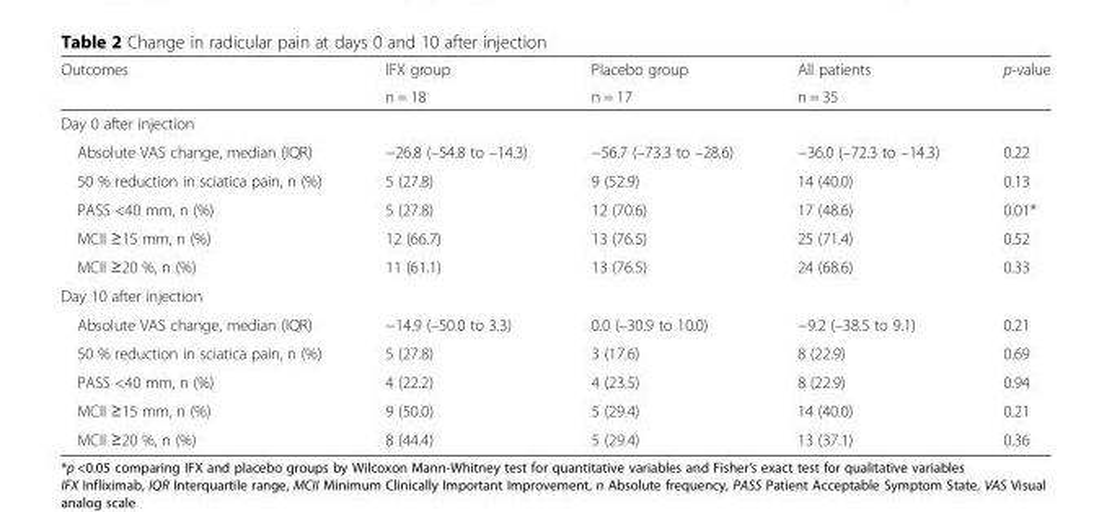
<table><thead><tr><td rowspan="2">Outcomes</td><td rowspan="2">IFX group n = 18</td><td rowspan="2">Placebo group n = 17</td><td rowspan="2">All patients n = 35</td><td rowspan="2">p-value</td></tr><tr></tr></thead><tbody><tr><td colspan="5">Day 0 after injection</td></tr><tr><td>Absolute VAS change, median (IQR)</td><td>−26.8 (–54.8 to –14.3)</td><td>−56.7 (–73.3 to –28.6)</td><td>−36.0 (–72.3 to –14.3)</td><td>0.22</td></tr><tr><td>50 % reduction in sciatica pain, n (%)</td><td>5 (27.8)</td><td>9 (52.9)</td><td>14 (40.0)</td><td>0.13</td></tr><tr><td>PASS &lt;40 mm, n (%)</td><td>5 (27.8)</td><td>12 (70.6)</td><td>17 (48.6)</td><td>0.01*</td></tr><tr><td>MCII ≥15 mm, n (%)</td><td>12 (66.7)</td><td>13 (76.5)</td><td>25 (71.4)</td><td>0.52</td></tr><tr><td>MCII ≥20 %, n (%)</td><td>11 (61.1)</td><td>13 (76.5)</td><td>24 (68.6)</td><td>0.33</td></tr><tr><td colspan="5">Day 10 after injection</td></tr><tr><td>Absolute VAS change, median (IQR)</td><td>−14.9 (–50.0 to 3.3)</td><td>0.0 (–30.9 to 10.0)</td><td>−9.2 (–38.5 to 9.1)</td><td>0.21</td></tr><tr><td>50 % reduction in sciatica pain, n (%)</td><td>5 (27.8)</td><td>3 (17.6)</td><td>8 (22.9)</td><td>0.69</td></tr><tr><td>PASS &lt;40 mm, n (%)</td><td>4 (22.2)</td><td>4 (23.5)</td><td>8 (22.9)</td><td>0.94</td></tr><tr><td>MCII ≥15 mm, n (%)</td><td>9 (50.0)</td><td>5 (29.4)</td><td>14 (40.0)</td><td>0.21</td></tr><tr><td>MCII ≥20 %, n (%)</td><td>8 (44.4)</td><td>5 (29.4)</td><td>13 (37.1)</td><td>0.36</td></tr></tbody></table>